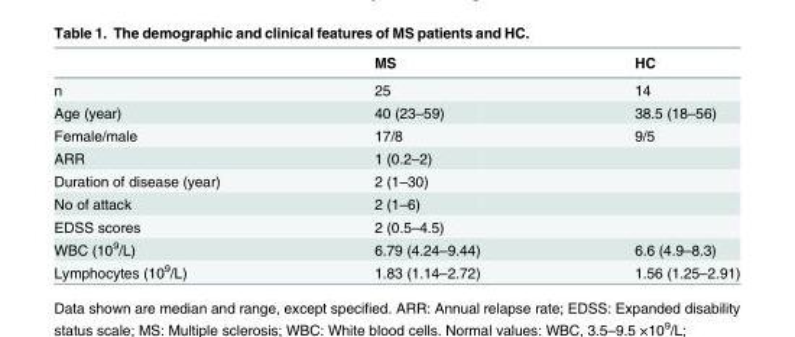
<table><thead><tr><td></td><td>MS</td><td>HC</td></tr></thead><tbody><tr><td>n</td><td>25</td><td>14</td></tr><tr><td>Age (year)</td><td>40 (23–59)</td><td>38.5 (18–56)</td></tr><tr><td>Female/male</td><td>17/8</td><td>9/5</td></tr><tr><td>ARR</td><td>1 (0.2–2)</td><td></td></tr><tr><td>Duration of disease (year)</td><td>2 (1–30)</td><td></td></tr><tr><td>No of attack</td><td>2 (1–6)</td><td></td></tr><tr><td>EDSS scores</td><td>2 (0.5–4.5)</td><td></td></tr><tr><td>WBC (10<sup>9</sup>/L)</td><td>6.79 (4.24–9.44)</td><td>6.6 (4.9–8.3)</td></tr><tr><td>Lymphocytes (10<sup>9</sup>/L)</td><td>1.83 (1.14–2.72)</td><td>1.56 (1.25–2.91)</td></tr></tbody></table>